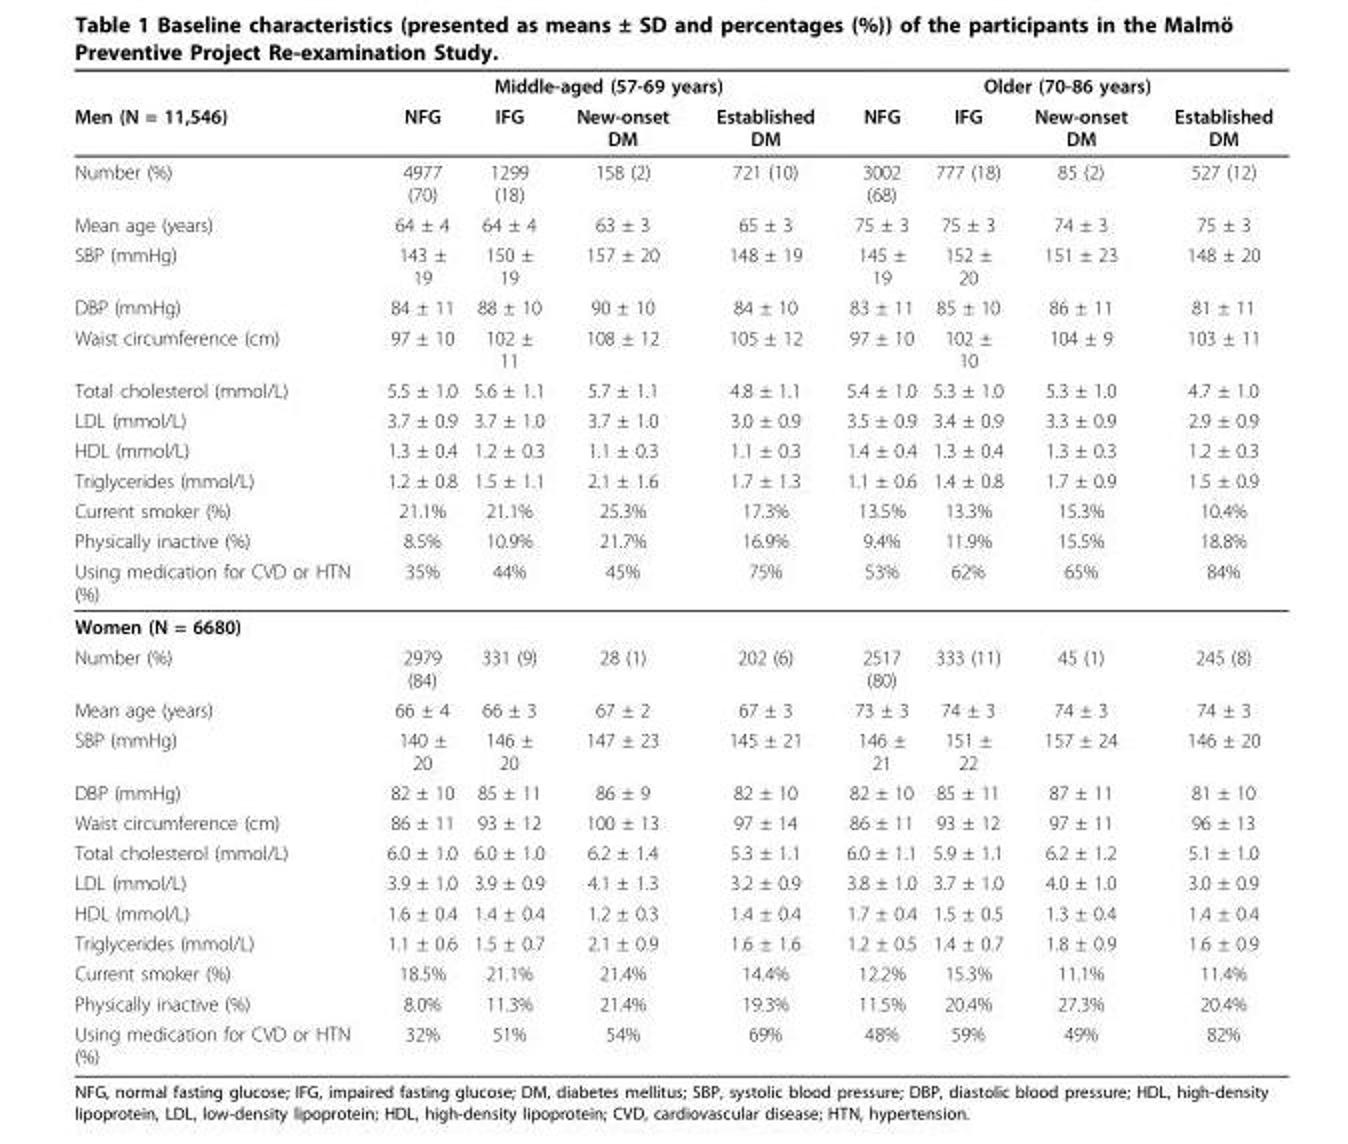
<table><thead><tr><td rowspan="2">Men (N = 11,546)</td><td colspan="4">Middle-aged (57-69 years)</td><td colspan="4">Older (70-86 years)</td></tr><tr><td>NFG</td><td>IFG</td><td>New-onset DM</td><td>Established DM</td><td>NFG</td><td>IFG</td><td>New-onset DM</td><td>Established DM</td></tr></thead><tbody><tr><td>Number (%)</td><td>4977 (70)</td><td>1299 (18)</td><td>158 (2)</td><td>721 (10)</td><td>3002 (68)</td><td>777 (18)</td><td>85 (2)</td><td>527 (12)</td></tr><tr><td>Mean age (years)</td><td>64 ± 4</td><td>64 ± 4</td><td>63 ± 3</td><td>65 ± 3</td><td>75 ± 3</td><td>75 ± 3</td><td>74 ± 3</td><td>75 ± 3</td></tr><tr><td>SBP (mmHg)</td><td>143 ± 19</td><td>150 ± 19</td><td>157 ± 20</td><td>148 ± 19</td><td>145 ± 19</td><td>152 ± 20</td><td>151 ± 23</td><td>148 ± 20</td></tr><tr><td>DBP (mmHg)</td><td>84 ± 11</td><td>88 ± 10</td><td>90 ± 10</td><td>84 ± 10</td><td>83 ± 11</td><td>85 ± 10</td><td>86 ± 11</td><td>81 ± 11</td></tr><tr><td>Waist circumference (cm)</td><td>97 ± 10</td><td>102 ± 11</td><td>108 ± 12</td><td>105 ± 12</td><td>97 ± 10</td><td>102 ± 10</td><td>104 ± 9</td><td>103 ± 11</td></tr><tr><td>Total cholesterol (mmol/L)</td><td>5.5 ± 1.0</td><td>5.6 ± 1.1</td><td>5.7 ± 1.1</td><td>4.8 ± 1.1</td><td>5.4 ± 1.0</td><td>5.3 ± 1.0</td><td>5.3 ± 1.0</td><td>4.7 ± 1.0</td></tr><tr><td>LDL (mmol/L)</td><td>3.7 ± 0.9</td><td>3.7 ± 1.0</td><td>3.7 ± 1.0</td><td>3.0 ± 0.9</td><td>3.5 ± 0.9</td><td>3.4 ± 0.9</td><td>3.3 ± 0.9</td><td>2.9 ± 0.9</td></tr><tr><td>HDL (mmol/L)</td><td>1.3 ± 0.4</td><td>1.2 ± 0.3</td><td>1.1 ± 0.3</td><td>1.1 ± 0.3</td><td>1.4 ± 0.4</td><td>1.3 ± 0.4</td><td>1.3 ± 0.3</td><td>1.2 ± 0.3</td></tr><tr><td>Triglycerides (mmol/L)</td><td>1.2 ± 0.8</td><td>1.5 ± 1.1</td><td>2.1 ± 1.6</td><td>1.7 ± 1.3</td><td>1.1 ± 0.6</td><td>1.4 ± 0.8</td><td>1.7 ± 0.9</td><td>1.5 ± 0.9</td></tr><tr><td>Current smoker (%)</td><td>21.1%</td><td>21.1%</td><td>25.3%</td><td>17.3%</td><td>13.5%</td><td>13.3%</td><td>15.3%</td><td>10.4%</td></tr><tr><td>Physically inactive (%)</td><td>8.5%</td><td>10.9%</td><td>21.7%</td><td>16.9%</td><td>9.4%</td><td>11.9%</td><td>15.5%</td><td>18.8%</td></tr><tr><td>Using medication for CVD or HTN (%)</td><td>35%</td><td>44%</td><td>45%</td><td>75%</td><td>53%</td><td>62%</td><td>65%</td><td>84%</td></tr><tr><td colspan="9">Women (N = 6680)</td></tr><tr><td>Number (%)</td><td>2979 (84)</td><td>331 (9)</td><td>28 (1)</td><td>202 (6)</td><td>2517 (80)</td><td>333 (11)</td><td>45 (1)</td><td>245 (8)</td></tr><tr><td>Mean age (years)</td><td>66 ± 4</td><td>66 ± 3</td><td>67 ± 2</td><td>67 ± 3</td><td>73 ± 3</td><td>74 ± 3</td><td>74 ± 3</td><td>74 ± 3</td></tr><tr><td>SBP (mmHg)</td><td>140 ± 20</td><td>146 ± 20</td><td>147 ± 23</td><td>145 ± 21</td><td>146 ± 21</td><td>151 ± 22</td><td>157 ± 24</td><td>146 ± 20</td></tr><tr><td>DBP (mmHg)</td><td>82 ± 10</td><td>85 ± 11</td><td>86 ± 9</td><td>82 ± 10</td><td>82 ± 10</td><td>85 ± 11</td><td>87 ± 11</td><td>81 ± 10</td></tr><tr><td>Waist circumference (cm)</td><td>86 ± 11</td><td>93 ± 12</td><td>100 ± 13</td><td>97 ± 14</td><td>86 ± 11</td><td>93 ± 12</td><td>97 ± 11</td><td>96 ± 13</td></tr><tr><td>Total cholesterol (mmol/L)</td><td>6.0 ± 1.0</td><td>6.0 ± 1.0</td><td>6.2 ± 1.4</td><td>5.3 ± 1.1</td><td>6.0 ± 1.1</td><td>5.9 ± 1.1</td><td>6.2 ± 1.2</td><td>5.1 ± 1.0</td></tr><tr><td>LDL (mmol/L)</td><td>3.9 ± 1.0</td><td>3.9 ± 0.9</td><td>4.1 ± 1.3</td><td>3.2 ± 0.9</td><td>3.8 ± 1.0</td><td>3.7 ± 1.0</td><td>4.0 ± 1.0</td><td>3.0 ± 0.9</td></tr><tr><td>HDL (mmol/L)</td><td>1.6 ± 0.4</td><td>1.4 ± 0.4</td><td>1.2 ± 0.3</td><td>1.4 ± 0.4</td><td>1.7 ± 0.4</td><td>1.5 ± 0.5</td><td>1.3 ± 0.4</td><td>1.4 ± 0.4</td></tr><tr><td>Triglycerides (mmol/L)</td><td>1.1 ± 0.6</td><td>1.5 ± 0.7</td><td>2.1 ± 0.9</td><td>1.6 ± 1.6</td><td>1.2 ± 0.5</td><td>1.4 ± 0.7</td><td>1.8 ± 0.9</td><td>1.6 ± 0.9</td></tr><tr><td>Current smoker (%)</td><td>18.5%</td><td>21.1%</td><td>21.4%</td><td>14.4%</td><td>12.2%</td><td>15.3%</td><td>11.1%</td><td>11.4%</td></tr><tr><td>Physically inactive (%)</td><td>8.0%</td><td>11.3%</td><td>21.4%</td><td>19.3%</td><td>11.5%</td><td>20.4%</td><td>27.3%</td><td>20.4%</td></tr><tr><td>Using medication for CVD or HTN (%)</td><td>32%</td><td>51%</td><td>54%</td><td>69%</td><td>48%</td><td>59%</td><td>49%</td><td>82%</td></tr></tbody></table>